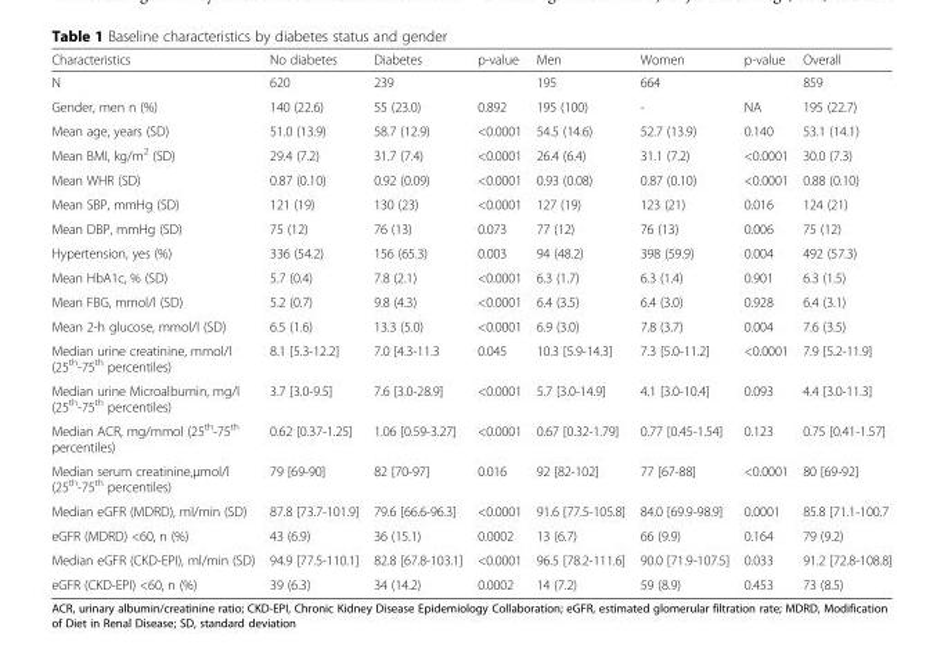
<table><thead><tr><td>Characteristics</td><td>No diabetes</td><td>Diabetes</td><td>p-value</td><td>Men</td><td>Women</td><td>p-value</td><td>Overall</td></tr></thead><tbody><tr><td>N</td><td>620</td><td>239</td><td></td><td>195</td><td>664</td><td></td><td>859</td></tr><tr><td>Gender, men n (%)</td><td>140 (22.6)</td><td>55 (23.0)</td><td>0.892</td><td>195 (100)</td><td>-</td><td>NA</td><td>195 (22.7)</td></tr><tr><td>Mean age, years (SD)</td><td>51.0 (13.9)</td><td>58.7 (12.9)</td><td>&lt;0.0001</td><td>54.5 (14.6)</td><td>52.7 (13.9)</td><td>0.140</td><td>53.1 (14.1)</td></tr><tr><td>Mean BMI, kg/m<sup>2</sup> (SD)</td><td>29.4 (7.2)</td><td>31.7 (7.4)</td><td>&lt;0.0001</td><td>26.4 (6.4)</td><td>31.1 (7.2)</td><td>&lt;0.0001</td><td>30.0 (7.3)</td></tr><tr><td>Mean WHR (SD)</td><td>0.87 (0.10)</td><td>0.92 (0.09)</td><td>&lt;0.0001</td><td>0.93 (0.08)</td><td>0.87 (0.10)</td><td>&lt;0.0001</td><td>0.88 (0.10)</td></tr><tr><td>Mean SBP, mmHg (SD)</td><td>121 (19)</td><td>130 (23)</td><td>&lt;0.0001</td><td>127 (19)</td><td>123 (21)</td><td>0.016</td><td>124 (21)</td></tr><tr><td>Mean DBP, mmHg (SD)</td><td>75 (12)</td><td>76 (13)</td><td>0.073</td><td>77 (12)</td><td>76 (13)</td><td>0.006</td><td>75 (12)</td></tr><tr><td>Hypertension, yes (%)</td><td>336 (54.2)</td><td>156 (65.3)</td><td>0.003</td><td>94 (48.2)</td><td>398 (59.9)</td><td>0.004</td><td>492 (57.3)</td></tr><tr><td>Mean HbA1c, % (SD)</td><td>5.7 (0.4)</td><td>7.8 (2.1)</td><td>&lt;0.0001</td><td>6.3 (1.7)</td><td>6.3 (1.4)</td><td>0.901</td><td>6.3 (1.5)</td></tr><tr><td>Mean FBG, mmol/l (SD)</td><td>5.2 (0.7)</td><td>9.8 (4.3)</td><td>&lt;0.0001</td><td>6.4 (3.5)</td><td>6.4 (3.0)</td><td>0.928</td><td>6.4 (3.1)</td></tr><tr><td>Mean 2-h glucose, mmol/l (SD)</td><td>6.5 (1.6)</td><td>13.3 (5.0)</td><td>&lt;0.0001</td><td>6.9 (3.0)</td><td>7.8 (3.7)</td><td>0.004</td><td>7.6 (3.5)</td></tr><tr><td>Median urine creatinine, mmol/l (25<sup>th</sup>-75<sup>th</sup> percentiles)</td><td>8.1 [5.3-12.2]</td><td>7.0 [4.3-11.3</td><td>0.045</td><td>10.3 [5.9-14.3]</td><td>7.3 [5.0-11.2]</td><td>&lt;0.0001</td><td>7.9 [5.2-11.9]</td></tr><tr><td>Median urine Microalbumin, mg/l (25<sup>th</sup>-75<sup>th</sup> percentiles)</td><td>3.7 [3.0-9.5]</td><td>7.6 [3.0-28.9]</td><td>&lt;0.0001</td><td>5.7 [3.0-14.9]</td><td>4.1 [3.0-10.4]</td><td>0.093</td><td>4.4 [3.0-11.3]</td></tr><tr><td>Median ACR, mg/mmol (25<sup>th</sup>-75<sup>th</sup> percentiles)</td><td>0.62 [0.37-1.25]</td><td>1.06 [0.59-3.27]</td><td>&lt;0.0001</td><td>0.67 [0.32-1.79]</td><td>0.77 [0.45-1.54]</td><td>0.123</td><td>0.75 [0.41-1.57]</td></tr><tr><td>Median serum creatinine,μmol/l (25<sup>th</sup>-75<sup>th</sup> percentiles)</td><td>79 [69-90]</td><td>82 [70-97]</td><td>0.016</td><td>92 [82-102]</td><td>77 [67-88]</td><td>&lt;0.0001</td><td>80 [69-92]</td></tr><tr><td>Median eGFR (MDRD), ml/min (SD)</td><td>87.8 [73.7-101.9]</td><td>79.6 [66.6-96.3]</td><td>&lt;0.0001</td><td>91.6 [77.5-105.8]</td><td>84.0 [69.9-98.9]</td><td>0.0001</td><td>85.8 [71.1-100.7</td></tr><tr><td>eGFR (MDRD) &lt;60, n (%)</td><td>43 (6.9)</td><td>36 (15.1)</td><td>0.0002</td><td>13 (6.7)</td><td>66 (9.9)</td><td>0.164</td><td>79 (9.2)</td></tr><tr><td>Median eGFR (CKD-EPI), ml/min (SD)</td><td>94.9 [77.5-110.1]</td><td>82.8 [67.8-103.1]</td><td>&lt;0.0001</td><td>96.5 [78.2-111.6]</td><td>90.0 [71.9-107.5]</td><td>0.033</td><td>91.2 [72.8-108.8]</td></tr><tr><td>eGFR (CKD-EPI) &lt;60, n (%)</td><td>39 (6.3)</td><td>34 (14.2)</td><td>0.0002</td><td>14 (7.2)</td><td>59 (8.9)</td><td>0.453</td><td>73 (8.5)</td></tr></tbody></table>